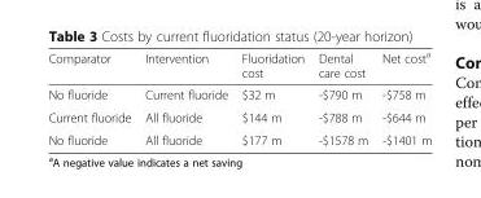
<table><thead><tr><td>Comparator</td><td>Intervention</td><td>Fluoridation cost</td><td>Dental care cost</td><td>Net cost<sup>a</sup></td></tr></thead><tbody><tr><td>No fluoride</td><td>Current fluoride</td><td>$32 m</td><td>-$790 m</td><td>-$758 m</td></tr><tr><td>Current fluoride</td><td>All fluoride</td><td>$144 m</td><td>-$788 m</td><td>-$644 m</td></tr><tr><td>No fluoride</td><td>All fluoride</td><td>$177 m</td><td>-$1578 m</td><td>-$1401 m</td></tr></tbody></table>